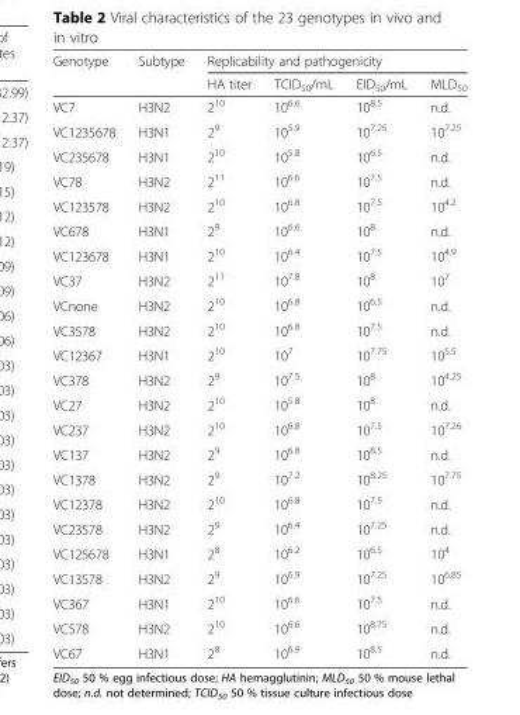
<table><thead><tr><td rowspan="2">Genotype</td><td rowspan="2">Subtype</td><td colspan="4">Replicability and pathogenicity</td></tr><tr><td>HA titer</td><td>TCID<sub>50</sub>/mL</td><td>EID<sub>50</sub>/mL</td><td>MLD<sub>50</sub></td></tr></thead><tbody><tr><td>VC7</td><td>H3N2</td><td>2<sup>10</sup></td><td>10<sup>6.6</sup></td><td>10<sup>8.5</sup></td><td>n.d.</td></tr><tr><td>VC1235678</td><td>H3N1</td><td>2<sup>9</sup></td><td>10<sup>5.9</sup></td><td>10<sup>7.25</sup></td><td>10<sup>7.25</sup></td></tr><tr><td>VC235678</td><td>H3N1</td><td>2<sup>10</sup></td><td>10<sup>5.8</sup></td><td>10<sup>6.5</sup></td><td>n.d.</td></tr><tr><td>VC78</td><td>H3N2</td><td>2<sup>11</sup></td><td>10<sup>6.6</sup></td><td>10<sup>7.5</sup></td><td>n.d.</td></tr><tr><td>VC123578</td><td>H3N2</td><td>2<sup>10</sup></td><td>10<sup>6.8</sup></td><td>10<sup>7.5</sup></td><td>10<sup>4.2</sup></td></tr><tr><td>VC678</td><td>H3N1</td><td>2<sup>9</sup></td><td>10<sup>6.6</sup></td><td>10<sup>8</sup></td><td>n.d.</td></tr><tr><td>VC123678</td><td>H3N1</td><td>2<sup>10</sup></td><td>10<sup>6.4</sup></td><td>10<sup>7.5</sup></td><td>10<sup>4.9</sup></td></tr><tr><td>VC37</td><td>H3N2</td><td>2<sup>11</sup></td><td>10<sup>7.8</sup></td><td>10<sup>8</sup></td><td>10<sup>7</sup></td></tr><tr><td>VCnone</td><td>H3N2</td><td>2<sup>10</sup></td><td>10<sup>6.8</sup></td><td>10<sup>6.5</sup></td><td>n.d.</td></tr><tr><td>VC3578</td><td>H3N2</td><td>2<sup>10</sup></td><td>10<sup>6.8</sup></td><td>10<sup>7.5</sup></td><td>n.d.</td></tr><tr><td>VC12367</td><td>H3N1</td><td>2<sup>10</sup></td><td>10<sup>7</sup></td><td>10<sup>7.75</sup></td><td>10<sup>5.5</sup></td></tr><tr><td>VC378</td><td>H3N2</td><td>2<sup>9</sup></td><td>10<sup>7.5</sup></td><td>10<sup>8</sup></td><td>10<sup>4.25</sup></td></tr><tr><td>VC27</td><td>H3N2</td><td>2<sup>10</sup></td><td>10<sup>5.8</sup></td><td>10<sup>8</sup></td><td>n.d.</td></tr><tr><td>VC237</td><td>H3N2</td><td>2<sup>10</sup></td><td>10<sup>6.8</sup></td><td>10<sup>7.5</sup></td><td>10<sup>7.26</sup></td></tr><tr><td>VC137</td><td>H3N2</td><td>2<sup>9</sup></td><td>10<sup>6.8</sup></td><td>10<sup>8.5</sup></td><td>n.d.</td></tr><tr><td>VC1378</td><td>H3N2</td><td>2<sup>9</sup></td><td>10<sup>7.2</sup></td><td>10<sup>8.25</sup></td><td>10<sup>7.75</sup></td></tr><tr><td>VC12378</td><td>H3N2</td><td>2<sup>10</sup></td><td>10<sup>6.8</sup></td><td>10<sup>7.5</sup></td><td>n.d.</td></tr><tr><td>VC23578</td><td>H3N2</td><td>2<sup>9</sup></td><td>10<sup>6.4</sup></td><td>10<sup>7.25</sup></td><td>n.d.</td></tr><tr><td>VC125678</td><td>H3N1</td><td>2<sup>8</sup></td><td>10<sup>6.2</sup></td><td>10<sup>6.5</sup></td><td>10<sup>4</sup></td></tr><tr><td>VC13578</td><td>H3N2</td><td>2<sup>9</sup></td><td>10<sup>6.9</sup></td><td>10<sup>7.25</sup></td><td>10<sup>6.85</sup></td></tr><tr><td>VC367</td><td>H3N1</td><td>2<sup>10</sup></td><td>10<sup>6.6</sup></td><td>10<sup>7.5</sup></td><td>n.d.</td></tr><tr><td>VC578</td><td>H3N2</td><td>2<sup>10</sup></td><td>10<sup>6.6</sup></td><td>10<sup>8.75</sup></td><td>n.d.</td></tr><tr><td>VC67</td><td>H3N1</td><td>2<sup>8</sup></td><td>10<sup>6.9</sup></td><td>10<sup>8.5</sup></td><td>n.d.</td></tr></tbody></table>